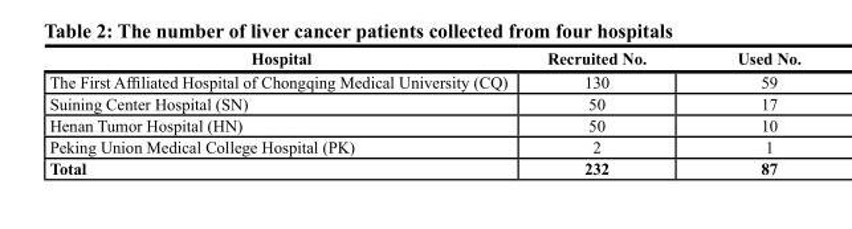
<table><thead><tr><td>Hospital</td><td>Recruited No.</td><td>Used No.</td></tr></thead><tbody><tr><td>The First Affiliated Hospital of Chongqing Medical University (CQ)</td><td>130</td><td>59</td></tr><tr><td>Suining Center Hospital (SN)</td><td>50</td><td>17</td></tr><tr><td>Henan Tumor Hospital (HN)</td><td>50</td><td>10</td></tr><tr><td>Peking Union Medical College Hospital (PK)</td><td>2</td><td>1</td></tr><tr><td>Total</td><td>232</td><td>87</td></tr></tbody></table>